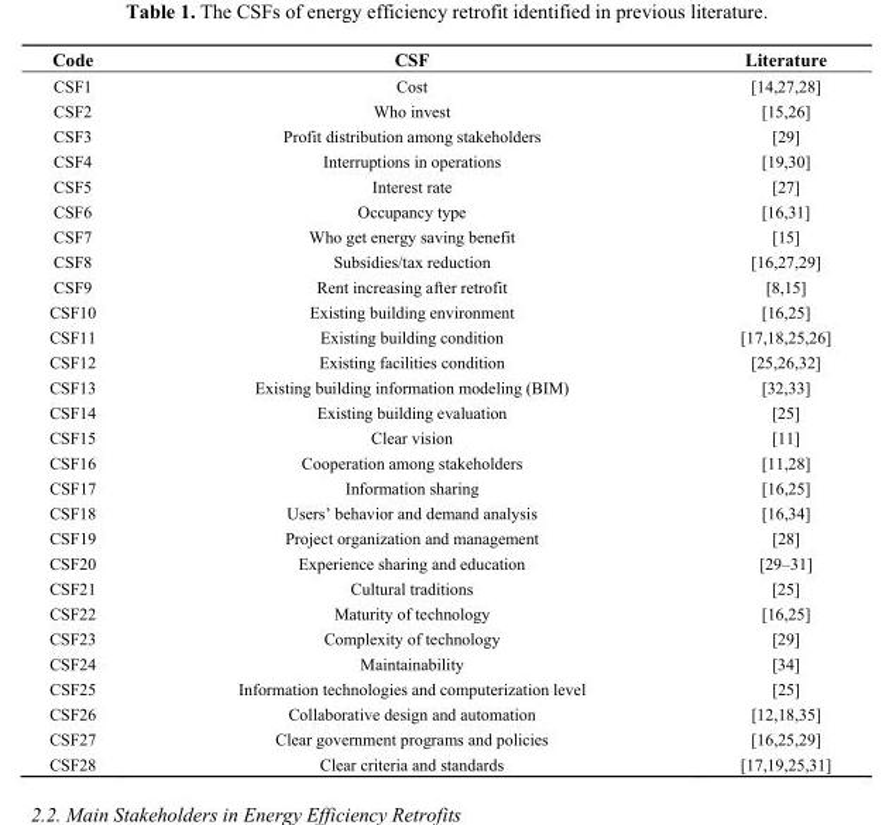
<table><thead><tr><td>Code</td><td>CSF</td><td>Literature</td></tr></thead><tbody><tr><td>CSF1</td><td>Cost</td><td>[14,27,28]</td></tr><tr><td>CSF2</td><td>Who invest</td><td>[15,26]</td></tr><tr><td>CSF3</td><td>Profit distribution among stakeholders</td><td>[29]</td></tr><tr><td>CSF4</td><td>Interruptions in operations</td><td>[19,30]</td></tr><tr><td>CSF5</td><td>Interest rate</td><td>[27]</td></tr><tr><td>CSF6</td><td>Occupancy type</td><td>[16,31]</td></tr><tr><td>CSF7</td><td>Who get energy saving benefit</td><td>[15]</td></tr><tr><td>CSF8</td><td>Subsidies/tax reduction</td><td>[16,27,29]</td></tr><tr><td>CSF9</td><td>Rent increasing after retrofit</td><td>[8,15]</td></tr><tr><td>CSF10</td><td>Existing building environment</td><td>[16,25]</td></tr><tr><td>CSF11</td><td>Existing building condition</td><td>[17,18,25,26]</td></tr><tr><td>CSF12</td><td>Existing facilities condition</td><td>[25,26,32]</td></tr><tr><td>CSF13</td><td>Existing building information modeling (BIM)</td><td>[32,33]</td></tr><tr><td>CSF14</td><td>Existing building evaluation</td><td>[25]</td></tr><tr><td>CSF15</td><td>Clear vision</td><td>[11]</td></tr><tr><td>CSF16</td><td>Cooperation among stakeholders</td><td>[11,28]</td></tr><tr><td>CSF17</td><td>Information sharing</td><td>[16,25]</td></tr><tr><td>CSF18</td><td>Users’ behavior and demand analysis</td><td>[16,34]</td></tr><tr><td>CSF19</td><td>Project organization and management</td><td>[28]</td></tr><tr><td>CSF20</td><td>Experience sharing and education</td><td>[29–31]</td></tr><tr><td>CSF21</td><td>Cultural traditions</td><td>[25]</td></tr><tr><td>CSF22</td><td>Maturity of technology</td><td>[16,25]</td></tr><tr><td>CSF23</td><td>Complexity of technology</td><td>[29]</td></tr><tr><td>CSF24</td><td>Maintainability</td><td>[34]</td></tr><tr><td>CSF25</td><td>Information technologies and computerization level</td><td>[25]</td></tr><tr><td>CSF26</td><td>Collaborative design and automation</td><td>[12,18,35]</td></tr><tr><td>CSF27</td><td>Clear government programs and policies</td><td>[16,25,29]</td></tr><tr><td>CSF28</td><td>Clear criteria and standards</td><td>[17,19,25,31]</td></tr></tbody></table>